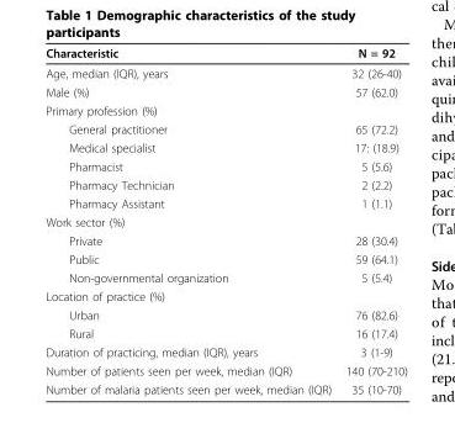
<table><thead><tr><td>Characteristic</td><td>N = 92</td></tr></thead><tbody><tr><td>Age, median (IQR), years</td><td>32 (26-40)</td></tr><tr><td>Male (%)</td><td>57 (62.0)</td></tr><tr><td colspan="2">Primary profession (%)</td></tr><tr><td>General practitioner</td><td>65 (72.2)</td></tr><tr><td>Medical specialist</td><td>17: (18.9)</td></tr><tr><td>Pharmacist</td><td>5 (5.6)</td></tr><tr><td>Pharmacy Technician</td><td>2 (2.2)</td></tr><tr><td>Pharmacy Assistant</td><td>1 (1.1)</td></tr><tr><td colspan="2">Work sector (%)</td></tr><tr><td>Private</td><td>28 (30.4)</td></tr><tr><td>Public</td><td>59 (64.1)</td></tr><tr><td>Non-governmental organization</td><td>5 (5.4)</td></tr><tr><td colspan="2">Location of practice (%)</td></tr><tr><td>Urban</td><td>76 (82.6)</td></tr><tr><td>Rural</td><td>16 (17.4)</td></tr><tr><td>Duration of practicing, median (IQR), years</td><td>3 (1-9)</td></tr><tr><td>Number of patients seen per week, median (IQR)</td><td>140 (70-210)</td></tr><tr><td>Number of malaria patients seen per week, median (IQR)</td><td>35 (10-70)</td></tr></tbody></table>